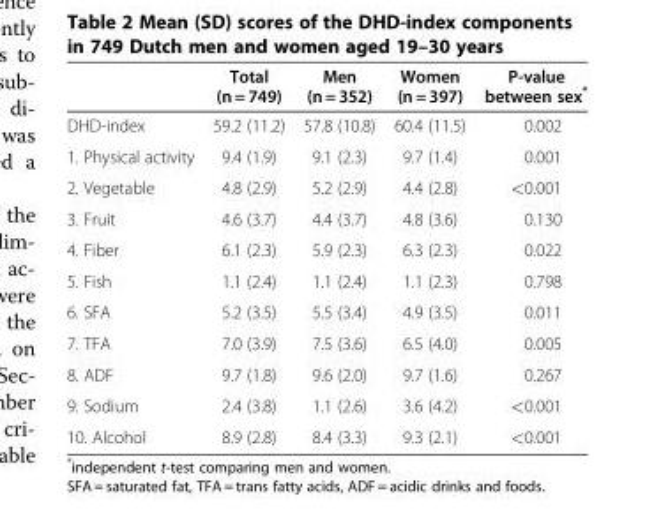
<table><thead><tr><td></td><td>Total (n = 749)</td><td>Men (n = 352)</td><td>Women (n = 397)</td><td>P-value between sex*</td></tr></thead><tbody><tr><td>DHD-index</td><td>59.2 (11.2)</td><td>57.8 (10.8)</td><td>60.4 (11.5)</td><td>0.002</td></tr><tr><td>1. Physical activity</td><td>9.4 (1.9)</td><td>9.1 (2.3)</td><td>9.7 (1.4)</td><td>0.001</td></tr><tr><td>2. Vegetable</td><td>4.8 (2.9)</td><td>5.2 (2.9)</td><td>4.4 (2.8)</td><td>&lt;0.001</td></tr><tr><td>3. Fruit</td><td>4.6 (3.7)</td><td>4.4 (3.7)</td><td>4.8 (3.6)</td><td>0.130</td></tr><tr><td>4. Fiber</td><td>6.1 (2.3)</td><td>5.9 (2.3)</td><td>6.3 (2.3)</td><td>0.022</td></tr><tr><td>5. Fish</td><td>1.1 (2.4)</td><td>1.1 (2.4)</td><td>1.1 (2.3)</td><td>0.798</td></tr><tr><td>6. SFA</td><td>5.2 (3.5)</td><td>5.5 (3.4)</td><td>4.9 (3.5)</td><td>0.011</td></tr><tr><td>7. TFA</td><td>7.0 (3.9)</td><td>7.5 (3.6)</td><td>6.5 (4.0)</td><td>0.005</td></tr><tr><td>8. ADF</td><td>9.7 (1.8)</td><td>9.6 (2.0)</td><td>9.7 (1.6)</td><td>0.267</td></tr><tr><td>9. Sodium</td><td>2.4 (3.8)</td><td>1.1 (2.6)</td><td>3.6 (4.2)</td><td>&lt;0.001</td></tr><tr><td>10. Alcohol</td><td>8.9 (2.8)</td><td>8.4 (3.3)</td><td>9.3 (2.1)</td><td>&lt;0.001</td></tr></tbody></table>